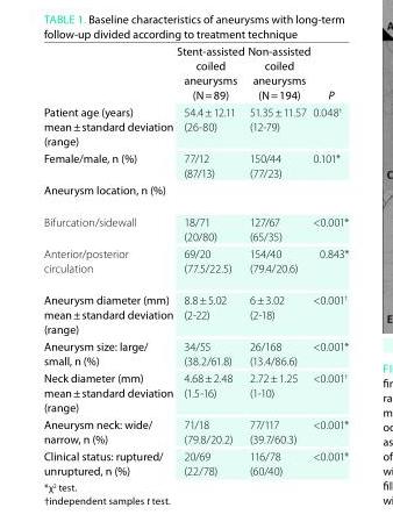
<table><thead><tr><td></td><td>stent-assisted coiled aneurysms (N = 89)</td><td>Non-assisted coiled aneurysms (N = 194)</td><td>P</td></tr></thead><tbody><tr><td>Patient age (years) mean ± standard deviation (range)</td><td>54.4 ± 12.11 (26-80)</td><td>51.35 ± 11.57 (12-79)</td><td>0.048<sup>†</sup></td></tr><tr><td>Female/male, n (%)</td><td>77/12 (87/13)</td><td>150/44 (77/23)</td><td>0.101*</td></tr><tr><td colspan="4">aneurysm location, n (%)</td></tr><tr><td>Bifurcation/sidewall</td><td>18/71 (20/80)</td><td>127/67 (65/35)</td><td>&lt;0.001*</td></tr><tr><td>Anterior/posterior circulation</td><td>69/20 (77.5/22.5)</td><td>154/40 (79.4/20.6)</td><td>0.843*</td></tr><tr><td>aneurysm diameter (mm) mean ± standard deviation (range)</td><td>8.8 ± 5.02 (2-22)</td><td>6 ± 3.02 (2-18)</td><td>&lt;0.001<sup>†</sup></td></tr><tr><td>aneurysm size: large/ small, n (%)</td><td>34/55 (38.2/61.8)</td><td>26/168 (13.4/86.6)</td><td>&lt;0.001*</td></tr><tr><td>Neck diameter (mm) mean ± standard deviation (range)</td><td>4.68 ± 2.48 (1.5-16)</td><td>2.72 ± 1.25 (1-10)</td><td>&lt;0.001<sup>†</sup></td></tr><tr><td>aneurysm neck: wide/ narrow, n (%)</td><td>71/18 (79.8/20.2)</td><td>77/117 (39.7/60.3)</td><td>&lt;0.001*</td></tr><tr><td>Clinical status: ruptured/ unruptured, n (%)</td><td>20/69 (22/78)</td><td>116/78 (60/40)</td><td>&lt;0.001*</td></tr></tbody></table>